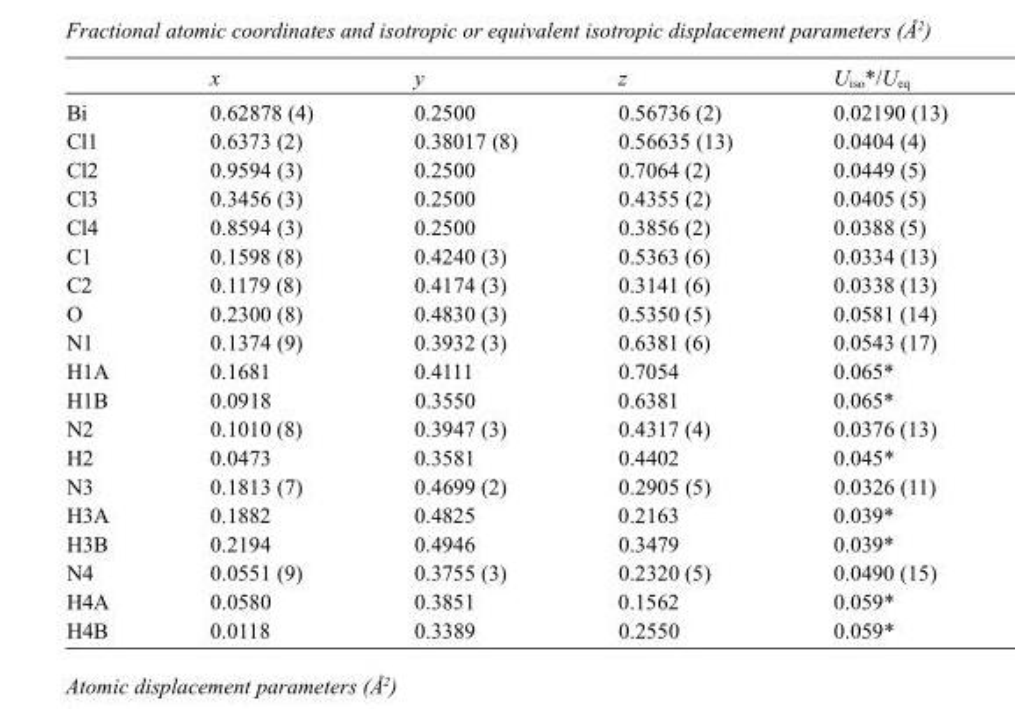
<table><thead><tr><td></td><td>x</td><td>y</td><td>z</td><td>U<sub>iso</sub>*/U<sub>eq</sub></td></tr></thead><tbody><tr><td>Bi</td><td>0.62878 (4)</td><td>0.2500</td><td>0.56736 (2)</td><td>0.02190 (13)</td></tr><tr><td>Cl1</td><td>0.6373 (2)</td><td>0.38017 (8)</td><td>0.56635 (13)</td><td>0.0404 (4)</td></tr><tr><td>Cl2</td><td>0.9594 (3)</td><td>0.2500</td><td>0.7064 (2)</td><td>0.0449 (5)</td></tr><tr><td>Cl3</td><td>0.3456 (3)</td><td>0.2500</td><td>0.4355 (2)</td><td>0.0405 (5)</td></tr><tr><td>Cl4</td><td>0.8594 (3)</td><td>0.2500</td><td>0.3856 (2)</td><td>0.0388 (5)</td></tr><tr><td>C1</td><td>0.1598 (8)</td><td>0.4240 (3)</td><td>0.5363 (6)</td><td>0.0334 (13)</td></tr><tr><td>C2</td><td>0.1179 (8)</td><td>0.4174 (3)</td><td>0.3141 (6)</td><td>0.0338 (13)</td></tr><tr><td>O</td><td>0.2300 (8)</td><td>0.4830 (3)</td><td>0.5350 (5)</td><td>0.0581 (14)</td></tr><tr><td>N1</td><td>0.1374 (9)</td><td>0.3932 (3)</td><td>0.6381 (6)</td><td>0.0543 (17)</td></tr><tr><td>H1A</td><td>0.1681</td><td>0.4111</td><td>0.7054</td><td>0.065*</td></tr><tr><td>H1B</td><td>0.0918</td><td>0.3550</td><td>0.6381</td><td>0.065*</td></tr><tr><td>N2</td><td>0.1010 (8)</td><td>0.3947 (3)</td><td>0.4317 (4)</td><td>0.0376 (13)</td></tr><tr><td>H2</td><td>0.0473</td><td>0.3581</td><td>0.4402</td><td>0.045*</td></tr><tr><td>N3</td><td>0.1813 (7)</td><td>0.4699 (2)</td><td>0.2905 (5)</td><td>0.0326 (11)</td></tr><tr><td>H3A</td><td>0.1882</td><td>0.4825</td><td>0.2163</td><td>0.039*</td></tr><tr><td>H3B</td><td>0.2194</td><td>0.4946</td><td>0.3479</td><td>0.039*</td></tr><tr><td>N4</td><td>0.0551 (9)</td><td>0.3755 (3)</td><td>0.2320 (5)</td><td>0.0490 (15)</td></tr><tr><td>H4A</td><td>0.0580</td><td>0.3851</td><td>0.1562</td><td>0.059*</td></tr><tr><td>H4B</td><td>0.0118</td><td>0.3389</td><td>0.2550</td><td>0.059*</td></tr></tbody></table>